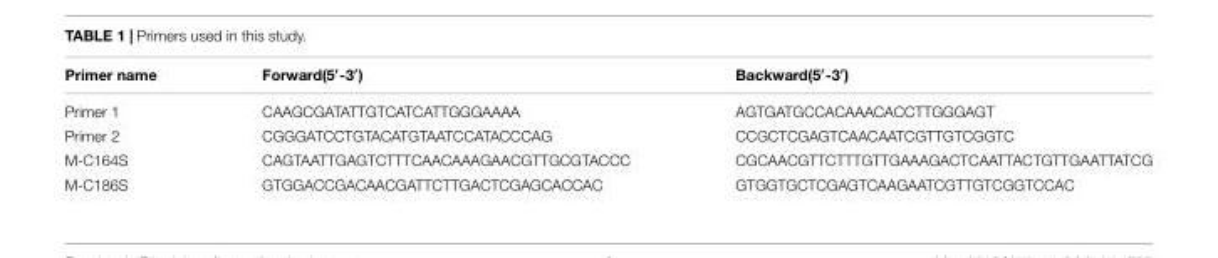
<table><thead><tr><td>Primer name</td><td>Forward(5′-3′)</td><td>Backward(5′-3′)</td></tr></thead><tbody><tr><td>Primer 1</td><td>CAAGCGATATTGTCATCATTGGGAAAA</td><td>AGTGATGCCACAAACACCTTGGGAGT</td></tr><tr><td>Primer 2</td><td>CGGGATCCTGTACATGTAATCCATACCCAG</td><td>CCGCTCGAGTCAACAATCGTTGTCGGTC</td></tr><tr><td>M-C164S</td><td>CAGTAATTGAGTCTTTCAACAAAGAACGTTGCGTACCC</td><td>CGCAACGTTCTTTGTTGAAAGACTCAATTACTGTTGAATTATCG</td></tr><tr><td>M-C186S</td><td>GTGGACCGACAACGATTCTTGACTCGAGCACCAC</td><td>GTGGTGCTCGAGTCAAGAATCGTTGTCGGTCCAC</td></tr></tbody></table>